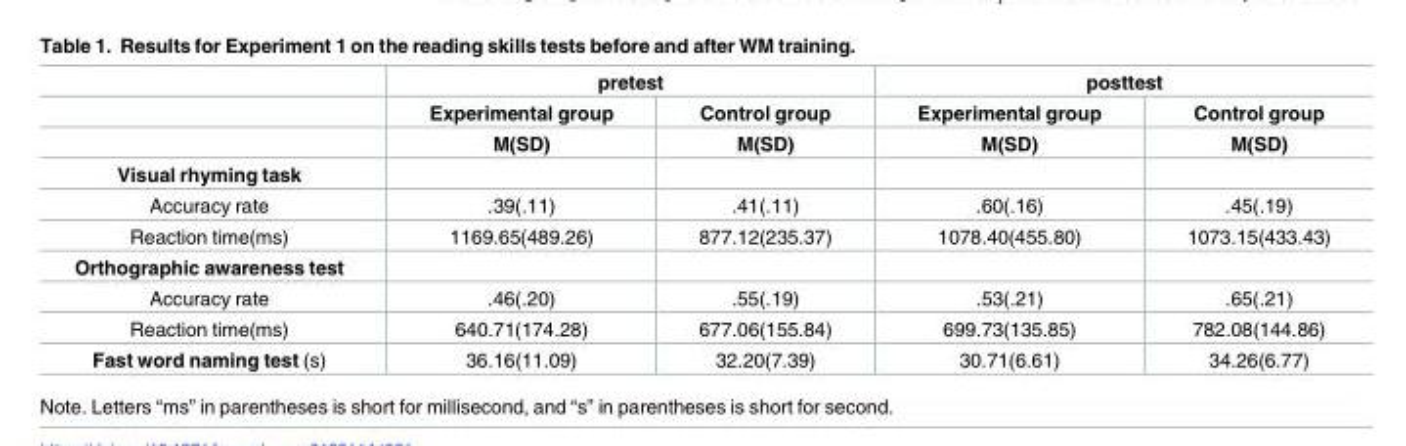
<table><thead><tr><td rowspan="3"></td><td colspan="2">pretest</td><td colspan="2">posttest</td></tr><tr><td rowspan="2">Experimental group M(SD)</td><td rowspan="2">Control group M(SD)</td><td rowspan="2">Experimental group M(SD)</td><td rowspan="2">Control group M(SD)</td></tr><tr></tr></thead><tbody><tr><td colspan="5">Visual rhyming task</td></tr><tr><td>Accuracy rate</td><td>.39(.11)</td><td>.41(.11)</td><td>.60(.16)</td><td>.45(.19)</td></tr><tr><td>Reaction time(ms)</td><td>1169.65(489.26)</td><td>877.12(235.37)</td><td>1078.40(455.80)</td><td>1073.15(433.43)</td></tr><tr><td colspan="5">Orthographic awareness test</td></tr><tr><td>Accuracy rate</td><td>.46(.20)</td><td>.55(.19)</td><td>.53(.21)</td><td>.65(.21)</td></tr><tr><td>Reaction time(ms)</td><td>640.71(174.28)</td><td>677.06(155.84)</td><td>699.73(135.85)</td><td>782.08(144.86)</td></tr><tr><td>Fast word naming test (s)</td><td>36.16(11.09)</td><td>32.20(7.39)</td><td>30.71(6.61)</td><td>34.26(6.77)</td></tr></tbody></table>